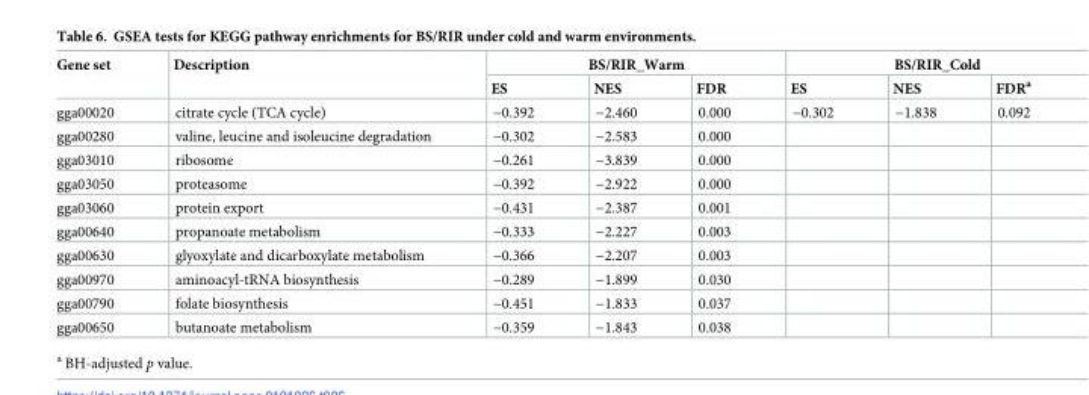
<table><thead><tr><td rowspan="2">Gene set</td><td rowspan="2">Description</td><td colspan="3">BS/RIR_Warm</td><td colspan="3">BS/RIR_Cold</td></tr><tr><td>ES</td><td>NES</td><td>FDR</td><td>ES</td><td>NES</td><td>FDR<sup>a</sup></td></tr></thead><tbody><tr><td>gga00020</td><td>citrate cycle (TCA cycle)</td><td>−0.392</td><td>−2.460</td><td>0.000</td><td>−0.302</td><td>−1.838</td><td>0.092</td></tr><tr><td>gga00280</td><td>valine, leucine and isoleucine degradation</td><td>−0.302</td><td>−2.583</td><td>0.000</td><td></td><td></td><td></td></tr><tr><td>gga03010</td><td>ribosome</td><td>−0.261</td><td>−3.839</td><td>0.000</td><td></td><td></td><td></td></tr><tr><td>gga03050</td><td>proteasome</td><td>−0.392</td><td>−2.922</td><td>0.000</td><td></td><td></td><td></td></tr><tr><td>gga03060</td><td>protein export</td><td>−0.431</td><td>−2.387</td><td>0.001</td><td></td><td></td><td></td></tr><tr><td>gga00640</td><td>propanoate metabolism</td><td>−0.333</td><td>−2.227</td><td>0.003</td><td></td><td></td><td></td></tr><tr><td>gga00630</td><td>glyoxylate and dicarboxylate metabolism</td><td>−0.366</td><td>−2.207</td><td>0.003</td><td></td><td></td><td></td></tr><tr><td>gga00970</td><td>aminoacyl-tRNA biosynthesis</td><td>−0.289</td><td>−1.899</td><td>0.030</td><td></td><td></td><td></td></tr><tr><td>gga00790</td><td>folate biosynthesis</td><td>−0.451</td><td>−1.833</td><td>0.037</td><td></td><td></td><td></td></tr><tr><td>gga00650</td><td>butanoate metabolism</td><td>−0.359</td><td>−1.843</td><td>0.038</td><td></td><td></td><td></td></tr></tbody></table>